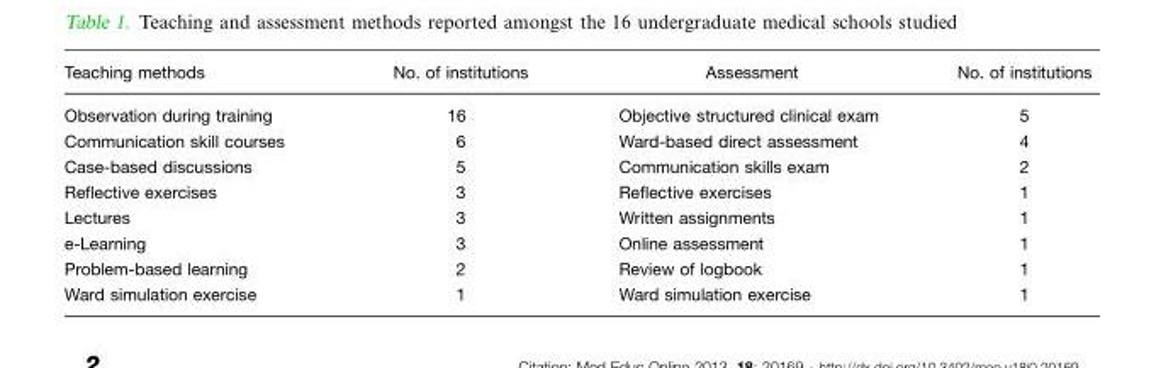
<table><thead><tr><td>Teaching methods</td><td>No. of institutions</td><td>Assessment</td><td>No. of institutions</td></tr></thead><tbody><tr><td>Observation during training</td><td>16</td><td>Objective structured clinical exam</td><td>5</td></tr><tr><td>Communication skill courses</td><td>6</td><td>Ward-based direct assessment</td><td>4</td></tr><tr><td>Case-based discussions</td><td>5</td><td>Communication skills exam</td><td>2</td></tr><tr><td>Reflective exercises</td><td>3</td><td>Reflective exercises</td><td>1</td></tr><tr><td>Lectures</td><td>3</td><td>Written assignments</td><td>1</td></tr><tr><td>e-Learning</td><td>3</td><td>Online assessment</td><td>1</td></tr><tr><td>Problem-based learning</td><td>2</td><td>Review of logbook</td><td>1</td></tr><tr><td>Ward simulation exercise</td><td>1</td><td>Ward simulation exercise</td><td>1</td></tr></tbody></table>